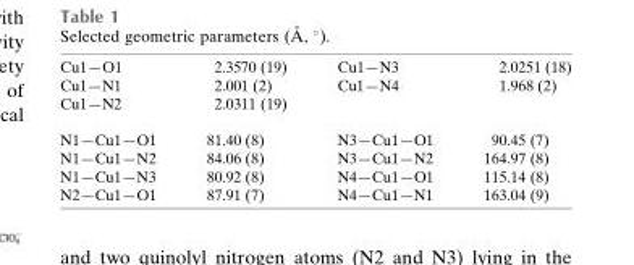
<table><tbody><tr><td>Cu1—O1</td><td>2.3570 (19)</td><td>Cu1—N3</td><td>2.0251 (18)</td></tr><tr><td>Cu1—N1</td><td>2.001 (2)</td><td>Cu1—N4</td><td>1.968 (2)</td></tr><tr><td>Cu1—N2</td><td>2.0311 (19)</td><td></td><td></td></tr><tr><td>N1—Cu1—O1</td><td>81.40 (8)</td><td>N3—Cu1—O1</td><td>90.45 (7)</td></tr><tr><td>N1—Cu1—N2</td><td>84.06 (8)</td><td>N3—Cu1—N2</td><td>164.97 (8)</td></tr><tr><td>N1—Cu1—N3</td><td>80.92 (8)</td><td>N4—Cu1—O1</td><td>115.14 (8)</td></tr><tr><td>N2—Cu1—O1</td><td>87.91 (7)</td><td>N4—Cu1—N1</td><td>163.04 (9)</td></tr></tbody></table>